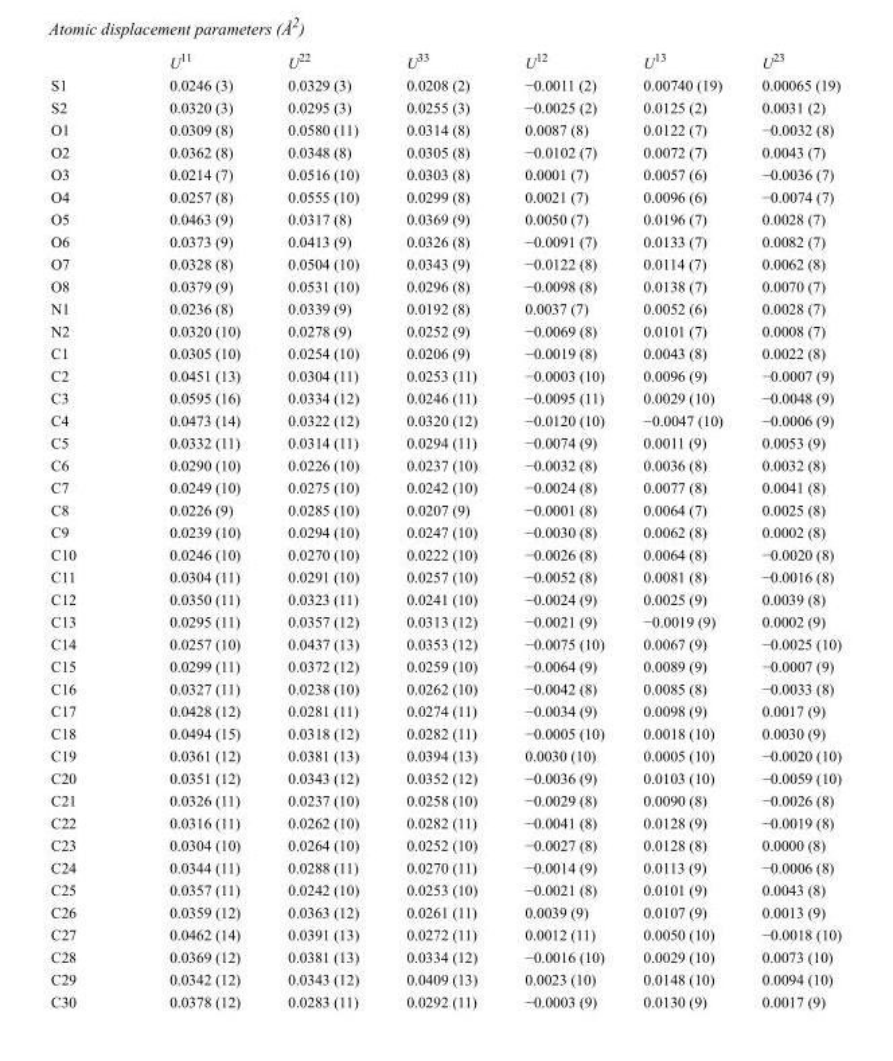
<table><thead><tr><td></td><td>U<sup>11</sup></td><td>U<sup>22</sup></td><td>U<sup>33</sup></td><td>U<sup>12</sup></td><td>U<sup>13</sup></td><td>U<sup>23</sup></td></tr></thead><tbody><tr><td>S1</td><td>0.0246 (3)</td><td>0.0329 (3)</td><td>0.0208 (2)</td><td>−0.0011 (2)</td><td>0.00740 (19)</td><td>0.00065 (19)</td></tr><tr><td>S2</td><td>0.0320 (3)</td><td>0.0295 (3)</td><td>0.0255 (3)</td><td>−0.0025 (2)</td><td>0.0125 (2)</td><td>0.0031 (2)</td></tr><tr><td>O1</td><td>0.0309 (8)</td><td>0.0580 (11)</td><td>0.0314 (8)</td><td>0.0087 (8)</td><td>0.0122 (7)</td><td>−0.0032 (8)</td></tr><tr><td>O2</td><td>0.0362 (8)</td><td>0.0348 (8)</td><td>0.0305 (8)</td><td>−0.0102 (7)</td><td>0.0072 (7)</td><td>0.0043 (7)</td></tr><tr><td>O3</td><td>0.0214 (7)</td><td>0.0516 (10)</td><td>0.0303 (8)</td><td>0.0001 (7)</td><td>0.0057 (6)</td><td>−0.0036 (7)</td></tr><tr><td>O4</td><td>0.0257 (8)</td><td>0.0555 (10)</td><td>0.0299 (8)</td><td>0.0021 (7)</td><td>0.0096 (6)</td><td>−0.0074 (7)</td></tr><tr><td>O5</td><td>0.0463 (9)</td><td>0.0317 (8)</td><td>0.0369 (9)</td><td>0.0050 (7)</td><td>0.0196 (7)</td><td>0.0028 (7)</td></tr><tr><td>O6</td><td>0.0373 (9)</td><td>0.0413 (9)</td><td>0.0326 (8)</td><td>−0.0091 (7)</td><td>0.0133 (7)</td><td>0.0082 (7)</td></tr><tr><td>O7</td><td>0.0328 (8)</td><td>0.0504 (10)</td><td>0.0343 (9)</td><td>−0.0122 (8)</td><td>0.0114 (7)</td><td>0.0062 (8)</td></tr><tr><td>O8</td><td>0.0379 (9)</td><td>0.0531 (10)</td><td>0.0296 (8)</td><td>−0.0098 (8)</td><td>0.0138 (7)</td><td>0.0070 (7)</td></tr><tr><td>N1</td><td>0.0236 (8)</td><td>0.0339 (9)</td><td>0.0192 (8)</td><td>0.0037 (7)</td><td>0.0052 (6)</td><td>0.0028 (7)</td></tr><tr><td>N2</td><td>0.0320 (10)</td><td>0.0278 (9)</td><td>0.0252 (9)</td><td>−0.0069 (8)</td><td>0.0101 (7)</td><td>0.0008 (7)</td></tr><tr><td>C1</td><td>0.0305 (10)</td><td>0.0254 (10)</td><td>0.0206 (9)</td><td>−0.0019 (8)</td><td>0.0043 (8)</td><td>0.0022 (8)</td></tr><tr><td>C2</td><td>0.0451 (13)</td><td>0.0304 (11)</td><td>0.0253 (11)</td><td>−0.0003 (10)</td><td>0.0096 (9)</td><td>−0.0007 (9)</td></tr><tr><td>C3</td><td>0.0595 (16)</td><td>0.0334 (12)</td><td>0.0246 (11)</td><td>−0.0095 (11)</td><td>0.0029 (10)</td><td>−0.0048 (9)</td></tr><tr><td>C4</td><td>0.0473 (14)</td><td>0.0322 (12)</td><td>0.0320 (12)</td><td>−0.0120 (10)</td><td>−0.0047 (10)</td><td>−0.0006 (9)</td></tr><tr><td>C5</td><td>0.0332 (11)</td><td>0.0314 (11)</td><td>0.0294 (11)</td><td>−0.0074 (9)</td><td>0.0011 (9)</td><td>0.0053 (9)</td></tr><tr><td>C6</td><td>0.0290 (10)</td><td>0.0226 (10)</td><td>0.0237 (10)</td><td>−0.0032 (8)</td><td>0.0036 (8)</td><td>0.0032 (8)</td></tr><tr><td>C7</td><td>0.0249 (10)</td><td>0.0275 (10)</td><td>0.0242 (10)</td><td>−0.0024 (8)</td><td>0.0077 (8)</td><td>0.0041 (8)</td></tr><tr><td>C8</td><td>0.0226 (9)</td><td>0.0285 (10)</td><td>0.0207 (9)</td><td>−0.0001 (8)</td><td>0.0064 (7)</td><td>0.0025 (8)</td></tr><tr><td>C9</td><td>0.0239 (10)</td><td>0.0294 (10)</td><td>0.0247 (10)</td><td>−0.0030 (8)</td><td>0.0062 (8)</td><td>0.0002 (8)</td></tr><tr><td>C10</td><td>0.0246 (10)</td><td>0.0270 (10)</td><td>0.0222 (10)</td><td>−0.0026 (8)</td><td>0.0064 (8)</td><td>−0.0020 (8)</td></tr><tr><td>C11</td><td>0.0304 (11)</td><td>0.0291 (10)</td><td>0.0257 (10)</td><td>−0.0052 (8)</td><td>0.0081 (8)</td><td>−0.0016 (8)</td></tr><tr><td>C12</td><td>0.0350 (11)</td><td>0.0323 (11)</td><td>0.0241 (10)</td><td>−0.0024 (9)</td><td>0.0025 (9)</td><td>0.0039 (8)</td></tr><tr><td>C13</td><td>0.0295 (11)</td><td>0.0357 (12)</td><td>0.0313 (12)</td><td>−0.0021 (9)</td><td>−0.0019 (9)</td><td>0.0002 (9)</td></tr><tr><td>C14</td><td>0.0257 (10)</td><td>0.0437 (13)</td><td>0.0353 (12)</td><td>−0.0075 (10)</td><td>0.0067 (9)</td><td>−0.0025 (10)</td></tr><tr><td>C15</td><td>0.0299 (11)</td><td>0.0372 (12)</td><td>0.0259 (10)</td><td>−0.0064 (9)</td><td>0.0089 (9)</td><td>−0.0007 (9)</td></tr><tr><td>C16</td><td>0.0327 (11)</td><td>0.0238 (10)</td><td>0.0262 (10)</td><td>−0.0042 (8)</td><td>0.0085 (8)</td><td>−0.0033 (8)</td></tr><tr><td>C17</td><td>0.0428 (12)</td><td>0.0281 (11)</td><td>0.0274 (11)</td><td>−0.0034 (9)</td><td>0.0098 (9)</td><td>0.0017 (9)</td></tr><tr><td>C18</td><td>0.0494 (15)</td><td>0.0318 (12)</td><td>0.0282 (11)</td><td>−0.0005 (10)</td><td>0.0018 (10)</td><td>0.0030 (9)</td></tr><tr><td>C19</td><td>0.0361 (12)</td><td>0.0381 (13)</td><td>0.0394 (13)</td><td>0.0030 (10)</td><td>0.0005 (10)</td><td>−0.0020 (10)</td></tr><tr><td>C20</td><td>0.0351 (12)</td><td>0.0343 (12)</td><td>0.0352 (12)</td><td>−0.0036 (9)</td><td>0.0103 (10)</td><td>−0.0059 (10)</td></tr><tr><td>C21</td><td>0.0326 (11)</td><td>0.0237 (10)</td><td>0.0258 (10)</td><td>−0.0029 (8)</td><td>0.0090 (8)</td><td>−0.0026 (8)</td></tr><tr><td>C22</td><td>0.0316 (11)</td><td>0.0262 (10)</td><td>0.0282 (11)</td><td>−0.0041 (8)</td><td>0.0128 (9)</td><td>−0.0019 (8)</td></tr><tr><td>C23</td><td>0.0304 (10)</td><td>0.0264 (10)</td><td>0.0252 (10)</td><td>−0.0027 (8)</td><td>0.0128 (8)</td><td>0.0000 (8)</td></tr><tr><td>C24</td><td>0.0344 (11)</td><td>0.0288 (11)</td><td>0.0270 (11)</td><td>−0.0014 (9)</td><td>0.0113 (9)</td><td>−0.0006 (8)</td></tr><tr><td>C25</td><td>0.0357 (11)</td><td>0.0242 (10)</td><td>0.0253 (10)</td><td>−0.0021 (8)</td><td>0.0101 (9)</td><td>0.0043 (8)</td></tr><tr><td>C26</td><td>0.0359 (12)</td><td>0.0363 (12)</td><td>0.0261 (11)</td><td>0.0039 (9)</td><td>0.0107 (9)</td><td>0.0013 (9)</td></tr><tr><td>C27</td><td>0.0462 (14)</td><td>0.0391 (13)</td><td>0.0272 (11)</td><td>0.0012 (11)</td><td>0.0050 (10)</td><td>−0.0018 (10)</td></tr><tr><td>C28</td><td>0.0369 (12)</td><td>0.0381 (13)</td><td>0.0334 (12)</td><td>−0.0016 (10)</td><td>0.0029 (10)</td><td>0.0073 (10)</td></tr><tr><td>C29</td><td>0.0342 (12)</td><td>0.0343 (12)</td><td>0.0409 (13)</td><td>0.0023 (10)</td><td>0.0148 (10)</td><td>0.0094 (10)</td></tr><tr><td>C30</td><td>0.0378 (12)</td><td>0.0283 (11)</td><td>0.0292 (11)</td><td>−0.0003 (9)</td><td>0.0130 (9)</td><td>0.0017 (9)</td></tr></tbody></table>